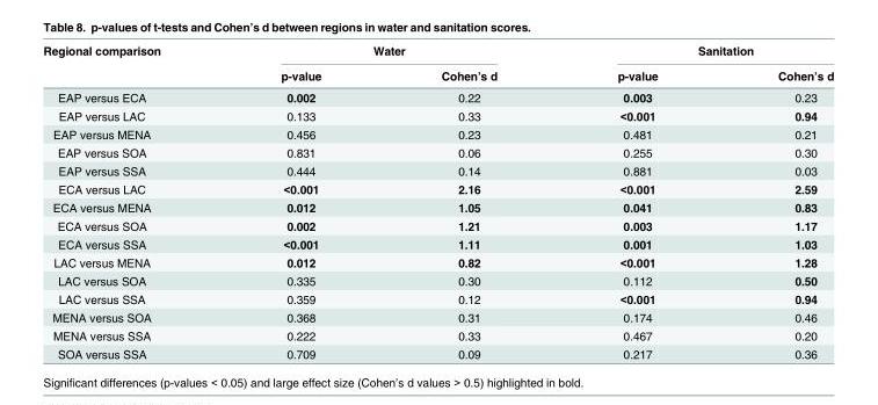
<table><thead><tr><td rowspan="2">Regional comparison</td><td colspan="2">Water</td><td colspan="2">Sanitation</td></tr><tr><td>p-value</td><td>Cohen’s d</td><td>p-value</td><td>Cohen’s d</td></tr></thead><tbody><tr><td>EAP versus ECA</td><td>0.002</td><td>0.22</td><td>0.003</td><td>0.23</td></tr><tr><td>EAP versus LAC</td><td>0.133</td><td>0.33</td><td>&lt;0.001</td><td>0.94</td></tr><tr><td>EAP versus MENA</td><td>0.456</td><td>0.23</td><td>0.481</td><td>0.21</td></tr><tr><td>EAP versus SOA</td><td>0.831</td><td>0.06</td><td>0.255</td><td>0.30</td></tr><tr><td>EAP versus SSA</td><td>0.444</td><td>0.14</td><td>0.881</td><td>0.03</td></tr><tr><td>ECA versus LAC</td><td>&lt;0.001</td><td>2.16</td><td>&lt;0.001</td><td>2.59</td></tr><tr><td>ECA versus MENA</td><td>0.012</td><td>1.05</td><td>0.041</td><td>0.83</td></tr><tr><td>ECA versus SOA</td><td>0.002</td><td>1.21</td><td>0.003</td><td>1.17</td></tr><tr><td>ECA versus SSA</td><td>&lt;0.001</td><td>1.11</td><td>0.001</td><td>1.03</td></tr><tr><td>LAC versus MENA</td><td>0.012</td><td>0.82</td><td>&lt;0.001</td><td>1.28</td></tr><tr><td>LAC versus SOA</td><td>0.335</td><td>0.30</td><td>0.112</td><td>0.50</td></tr><tr><td>LAC versus SSA</td><td>0.359</td><td>0.12</td><td>&lt;0.001</td><td>0.94</td></tr><tr><td>MENA versus SOA</td><td>0.368</td><td>0.31</td><td>0.174</td><td>0.46</td></tr><tr><td>MENA versus SSA</td><td>0.222</td><td>0.33</td><td>0.467</td><td>0.20</td></tr><tr><td>SOA versus SSA</td><td>0.709</td><td>0.09</td><td>0.217</td><td>0.36</td></tr></tbody></table>